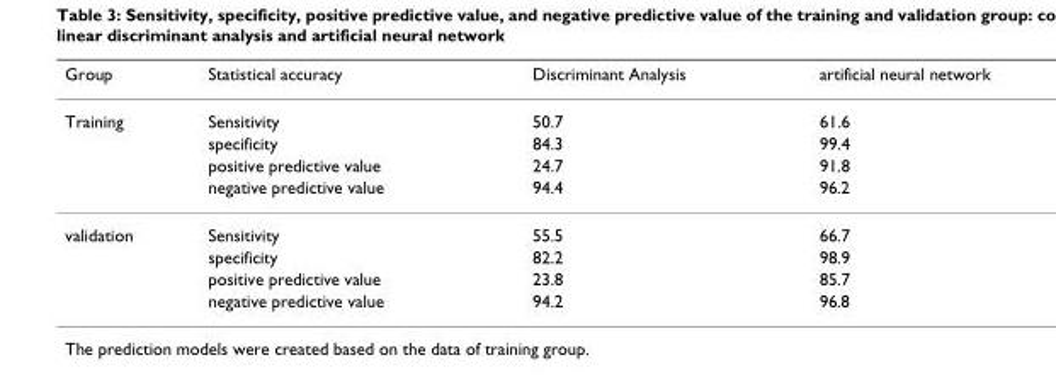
<table><thead><tr><td>Group</td><td>Statistical accuracy</td><td>Discriminant Analysis</td><td>artificial neural network</td></tr></thead><tbody><tr><td rowspan="4">Training</td><td>Sensitivity</td><td>50.7</td><td>61.6</td></tr><tr><td>specificity</td><td>84.3</td><td>99.4</td></tr><tr><td>positive predictive value</td><td>24.7</td><td>91.8</td></tr><tr><td>negative predictive value</td><td>94.4</td><td>96.2</td></tr><tr><td rowspan="4">validation</td><td>Sensitivity</td><td>55.5</td><td>66.7</td></tr><tr><td>specificity</td><td>82.2</td><td>98.9</td></tr><tr><td>positive predictive value</td><td>23.8</td><td>85.7</td></tr><tr><td>negative predictive value</td><td>94.2</td><td>96.8</td></tr></tbody></table>